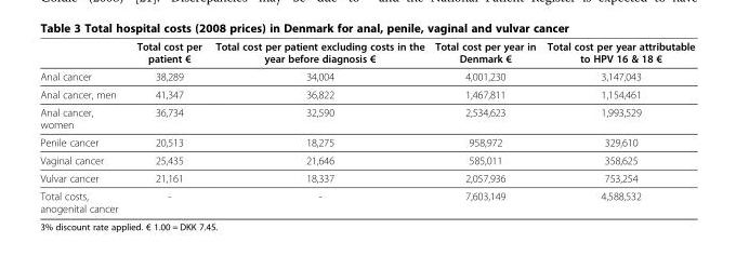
<table><thead><tr><td></td><td>Total cost per patient €</td><td>Total cost per patient excluding costs in the year before diagnosis €</td><td>Total cost per year in Denmark €</td><td>Total cost per year attributable to HPV 16 &amp; 18 €</td></tr></thead><tbody><tr><td>Anal cancer</td><td>38,289</td><td>34,004</td><td>4,001,230</td><td>3,147,043</td></tr><tr><td>Anal cancer, men</td><td>41,347</td><td>36,822</td><td>1,467,811</td><td>1,154,461</td></tr><tr><td>Anal cancer, women</td><td>36,734</td><td>32,590</td><td>2,534,623</td><td>1,993,529</td></tr><tr><td>Penile cancer</td><td>20,513</td><td>18,275</td><td>958,972</td><td>329,610</td></tr><tr><td>Vaginal cancer</td><td>25,435</td><td>21,646</td><td>585,011</td><td>358,625</td></tr><tr><td>Vulvar cancer</td><td>21,161</td><td>18,337</td><td>2,057,936</td><td>753,254</td></tr><tr><td>Total costs, anogenital cancer</td><td>-</td><td>-</td><td>7,603,149</td><td>4,588,532</td></tr></tbody></table>